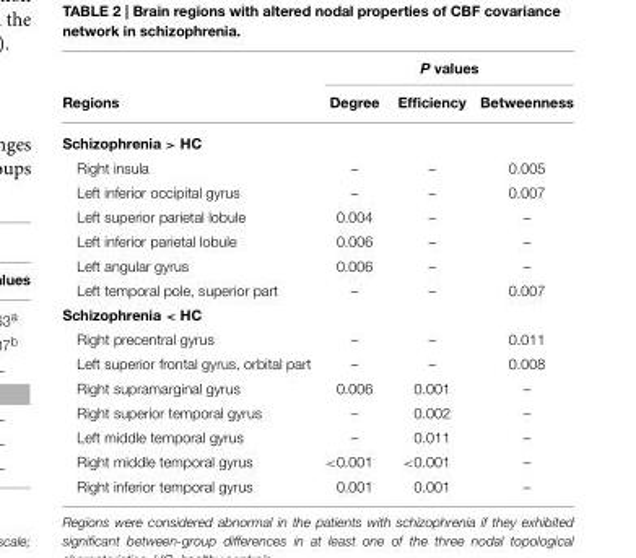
<table><thead><tr><td rowspan="2">Regions</td><td colspan="3">P values</td></tr><tr><td>Degree</td><td>Efficiency</td><td>Betweenness</td></tr></thead><tbody><tr><td colspan="4">Schizophrenia &gt; HC</td></tr><tr><td>Right insula</td><td>–</td><td>–</td><td>0.005</td></tr><tr><td>Left inferior occipital gyrus</td><td>–</td><td>–</td><td>0.007</td></tr><tr><td>Left superior parietal lobule</td><td>0.004</td><td>–</td><td>–</td></tr><tr><td>Left inferior parietal lobule</td><td>0.006</td><td>–</td><td>–</td></tr><tr><td>Left angular gyrus</td><td>0.006</td><td>–</td><td>–</td></tr><tr><td>Left temporal pole, superior part</td><td>–</td><td>–</td><td>0.007</td></tr><tr><td colspan="4">Schizophrenia &lt; HC</td></tr><tr><td>Right precentral gyrus</td><td>–</td><td>–</td><td>0.011</td></tr><tr><td>Left superior frontal gyrus, orbital part</td><td>–</td><td>–</td><td>0.008</td></tr><tr><td>Right supramarginal gyrus</td><td>0.006</td><td>0.001</td><td>–</td></tr><tr><td>Right superior temporal gyrus</td><td>–</td><td>0.002</td><td>–</td></tr><tr><td>Left middle temporal gyrus</td><td>–</td><td>0.011</td><td>–</td></tr><tr><td>Right middle temporal gyrus</td><td>&lt;0.001</td><td>&lt;0.001</td><td>–</td></tr><tr><td>Right inferior temporal gyrus</td><td>0.001</td><td>0.001</td><td>–</td></tr></tbody></table>